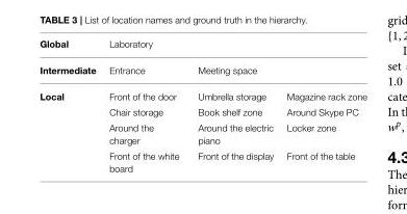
<table><thead><tr><td rowspan="2">Global Intermediate</td><td colspan="3">Laboratory</td></tr><tr><td>Entrance</td><td>Meeting space</td><td></td></tr></thead><tbody><tr><td rowspan="4">Local</td><td>Front of the door</td><td>Umbrella storage</td><td>Magazine rack zone</td></tr><tr><td>Chair storage</td><td>Book shelf zone</td><td>Around Skype PC</td></tr><tr><td>Around the charger</td><td>Around the electric piano</td><td>Locker zone</td></tr><tr><td>Front of the white board</td><td>Front of the display</td><td>Front of the table</td></tr></tbody></table>